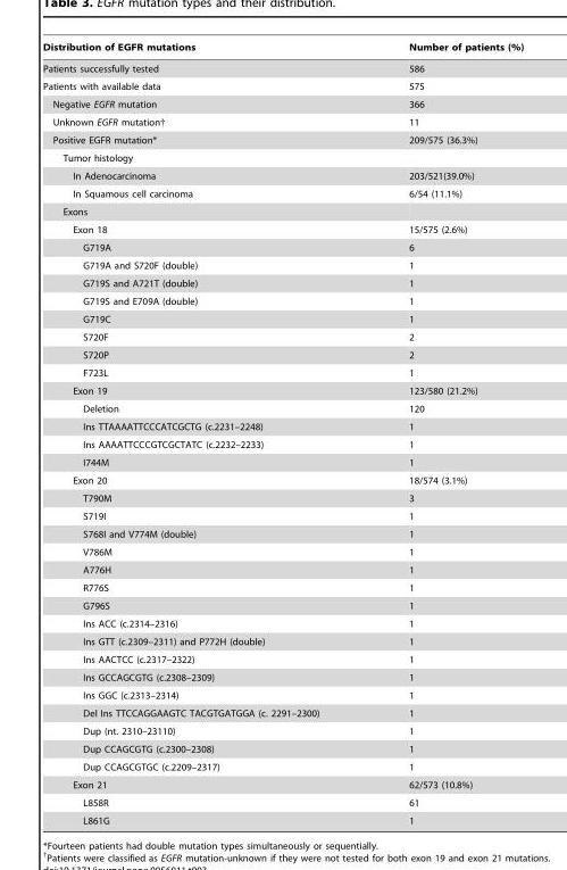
<table><thead><tr><td>Distribution of EGFR mutations</td><td>Number of patients (%)</td></tr></thead><tbody><tr><td>Patients successfully tested</td><td>586</td></tr><tr><td>Patients with available data</td><td>575</td></tr><tr><td>Negative EGFR mutation</td><td>366</td></tr><tr><td>Unknown EGFR mutation†</td><td>11</td></tr><tr><td>Positive EGFR mutation*</td><td>209/575 (36.3%)</td></tr><tr><td colspan="2">Tumor histology</td></tr><tr><td>In Adenocarcinoma</td><td>203/521(39.0%)</td></tr><tr><td>In Squamous cell carcinoma</td><td>6/54 (11.1%)</td></tr><tr><td colspan="2">Exons</td></tr><tr><td>Exon 18</td><td>15/575 (2.6%)</td></tr><tr><td>G719A</td><td>6</td></tr><tr><td>G719A and S720F (double)</td><td>1</td></tr><tr><td>G719S and A721T (double)</td><td>1</td></tr><tr><td>G719S and E709A (double)</td><td>1</td></tr><tr><td>G719C</td><td>1</td></tr><tr><td>S720F</td><td>2</td></tr><tr><td>S720P</td><td>2</td></tr><tr><td>F723L</td><td>1</td></tr><tr><td>Exon 19</td><td>123/580 (21.2%)</td></tr><tr><td>Deletion</td><td>120</td></tr><tr><td>Ins TTAAAATTCCCATCGCTG (c.2231–2248)</td><td>1</td></tr><tr><td>Ins AAAATTCCCGTCGCTATC (c.2232–2233)</td><td>1</td></tr><tr><td>I744M</td><td>1</td></tr><tr><td>Exon 20</td><td>18/574 (3.1%)</td></tr><tr><td>T790M</td><td>3</td></tr><tr><td>S719I</td><td>1</td></tr><tr><td>S768I and V774M (double)</td><td>1</td></tr><tr><td>V786M</td><td>1</td></tr><tr><td>A776H</td><td>1</td></tr><tr><td>R776S</td><td>1</td></tr><tr><td>G796S</td><td>1</td></tr><tr><td>Ins ACC (c.2314–2316)</td><td>1</td></tr><tr><td>Ins GTT (c.2309–2311) and P772H (double)</td><td>1</td></tr><tr><td>Ins AACTCC (c.2317–2322)</td><td>1</td></tr><tr><td>Ins GCCAGCGTG (c.2308–2309)</td><td>1</td></tr><tr><td>Ins GGC (c.2313–2314)</td><td>1</td></tr><tr><td>Del Ins TTCCAGGAAGTC TACGTGATGGA (c. 2291–2300)</td><td>1</td></tr><tr><td>Dup (nt. 2310–23110)</td><td>1</td></tr><tr><td>Dup CCAGCGTG (c.2300–2308)</td><td>1</td></tr><tr><td>Dup CCAGCGTGC (c.2209–2317)</td><td>1</td></tr><tr><td>Exon 21</td><td>62/573 (10.8%)</td></tr><tr><td>L858R</td><td>61</td></tr><tr><td>L861G</td><td>1</td></tr></tbody></table>